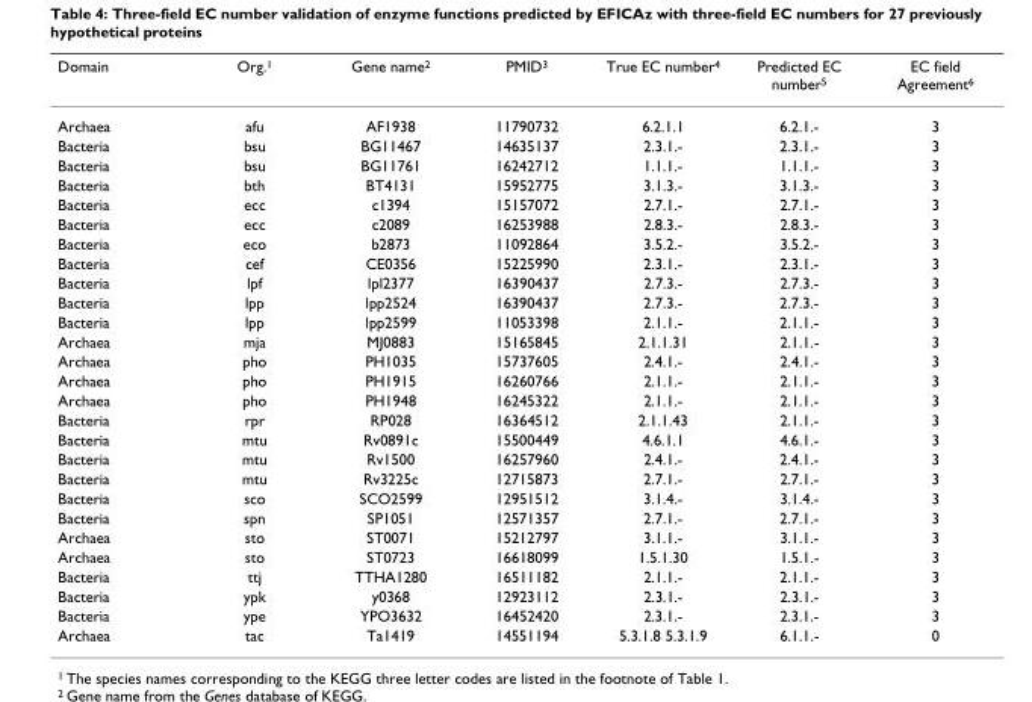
<table><thead><tr><td>Domain</td><td>Org.1</td><td>Gene name2</td><td>PMID3</td><td>True EC number4</td><td>Predicted EC number5</td><td>EC field Agreement6</td></tr></thead><tbody><tr><td>Archaea</td><td>afu</td><td>AF1938</td><td>11790732</td><td>6.2.1.1</td><td>6.2.1.-</td><td>3</td></tr><tr><td>Bacteria</td><td>bsu</td><td>BG11467</td><td>14635137</td><td>2.3.1.-</td><td>2.3.1.-</td><td>3</td></tr><tr><td>Bacteria</td><td>bsu</td><td>BG11761</td><td>16242712</td><td>1.1.1.-</td><td>1.1.1.-</td><td>3</td></tr><tr><td>Bacteria</td><td>bth</td><td>BT4131</td><td>15952775</td><td>3.1.3.-</td><td>3.1.3.-</td><td>3</td></tr><tr><td>Bacteria</td><td>ecc</td><td>c1394</td><td>15157072</td><td>2.7.1.-</td><td>2.7.1.-</td><td>3</td></tr><tr><td>Bacteria</td><td>ecc</td><td>c2089</td><td>16253988</td><td>2.8.3.-</td><td>2.8.3.-</td><td>3</td></tr><tr><td>Bacteria</td><td>eco</td><td>b2873</td><td>11092864</td><td>3.5.2.-</td><td>3.5.2.-</td><td>3</td></tr><tr><td>Bacteria</td><td>cef</td><td>CE0356</td><td>15225990</td><td>2.3.1.-</td><td>2.3.1.-</td><td>3</td></tr><tr><td>Bacteria</td><td>lpf</td><td>lpl2377</td><td>16390437</td><td>2.7.3.-</td><td>2.7.3.-</td><td>3</td></tr><tr><td>Bacteria</td><td>lpp</td><td>lpp2524</td><td>16390437</td><td>2.7.3.-</td><td>2.7.3.-</td><td>3</td></tr><tr><td>Bacteria</td><td>lpp</td><td>lpp2599</td><td>11053398</td><td>2.1.1.-</td><td>2.1.1.-</td><td>3</td></tr><tr><td>Archaea</td><td>mja</td><td>MJ0883</td><td>15165845</td><td>2.1.1.31</td><td>2.1.1.-</td><td>3</td></tr><tr><td>Archaea</td><td>pho</td><td>PH1035</td><td>15737605</td><td>2.4.1.-</td><td>2.4.1.-</td><td>3</td></tr><tr><td>Archaea</td><td>pho</td><td>PH1915</td><td>16260766</td><td>2.1.1.-</td><td>2.1.1.-</td><td>3</td></tr><tr><td>Archaea</td><td>pho</td><td>PH1948</td><td>16245322</td><td>2.1.1.-</td><td>2.1.1.-</td><td>3</td></tr><tr><td>Bacteria</td><td>rpr</td><td>RP028</td><td>16364512</td><td>2.1.1.43</td><td>2.1.1.-</td><td>3</td></tr><tr><td>Bacteria</td><td>mtu</td><td>Rv0891c</td><td>15500449</td><td>4.6.1.1</td><td>4.6.1.-</td><td>3</td></tr><tr><td>Bacteria</td><td>mtu</td><td>Rv1500</td><td>16257960</td><td>2.4.1.-</td><td>2.4.1.-</td><td>3</td></tr><tr><td>Bacteria</td><td>mtu</td><td>Rv3225c</td><td>12715873</td><td>2.7.1.-</td><td>2.7.1.-</td><td>3</td></tr><tr><td>Bacteria</td><td>sco</td><td>SCO2599</td><td>12951512</td><td>3.1.4.-</td><td>3.1.4.-</td><td>3</td></tr><tr><td>Bacteria</td><td>spn</td><td>SP1051</td><td>12571357</td><td>2.7.1.-</td><td>2.7.1.-</td><td>3</td></tr><tr><td>Archaea</td><td>sto</td><td>ST0071</td><td>15212797</td><td>3.1.1.-</td><td>3.1.1.-</td><td>3</td></tr><tr><td>Archaea</td><td>sto</td><td>ST0723</td><td>16618099</td><td>1.5.1.30</td><td>1.5.1.-</td><td>3</td></tr><tr><td>Bacteria</td><td>ttj</td><td>TTHA1280</td><td>16511182</td><td>2.1.1.-</td><td>2.1.1.-</td><td>3</td></tr><tr><td>Bacteria</td><td>ypk</td><td>y0368</td><td>12923112</td><td>2.3.1.-</td><td>2.3.1.-</td><td>3</td></tr><tr><td>Bacteria</td><td>ype</td><td>YPO3632</td><td>16452420</td><td>2.3.1.-</td><td>2.3.1.-</td><td>3</td></tr><tr><td>Archaea</td><td>tac</td><td>Ta1419</td><td>14551194</td><td>5.3.1.8 5.3.1.9</td><td>6.1.1.-</td><td>0</td></tr></tbody></table>